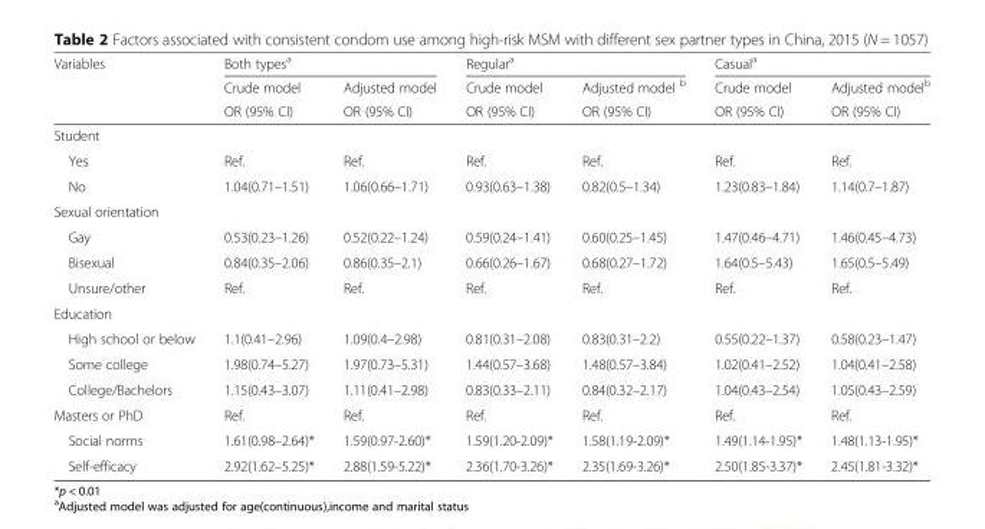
<table><thead><tr><td rowspan="3">Variables</td><td colspan="2">Both types<sup>a</sup></td><td colspan="2">Regular<sup>a</sup></td><td colspan="2">Casual<sup>a</sup></td></tr><tr><td rowspan="2">Crude model OR (95% CI)</td><td rowspan="2">Adjusted model OR (95% CI)</td><td rowspan="2">Crude model OR (95% CI)</td><td rowspan="2">Adjusted model <sup>b</sup> OR (95% CI)</td><td rowspan="2">Crude model OR (95% CI)</td><td rowspan="2">Adjusted model<sup>b</sup> OR (95% CI)</td></tr><tr></tr></thead><tbody><tr><td colspan="7">Student</td></tr><tr><td>Yes</td><td>Ref.</td><td>Ref.</td><td>Ref.</td><td>Ref.</td><td>Ref.</td><td>Ref.</td></tr><tr><td>No</td><td>1.04(0.71–1.51)</td><td>1.06(0.66–1.71)</td><td>0.93(0.63–1.38)</td><td>0.82(0.5–1.34)</td><td>1.23(0.83–1.84)</td><td>1.14(0.7–1.87)</td></tr><tr><td colspan="7">Sexual orientation</td></tr><tr><td>Gay</td><td>0.53(0.23–1.26)</td><td>0.52(0.22–1.24)</td><td>0.59(0.24–1.41)</td><td>0.60(0.25–1.45)</td><td>1.47(0.46–4.71)</td><td>1.46(0.45–4.73)</td></tr><tr><td>Bisexual</td><td>0.84(0.35–2.06)</td><td>0.86(0.35–2.1)</td><td>0.66(0.26–1.67)</td><td>0.68(0.27–1.72)</td><td>1.64(0.5–5.43)</td><td>1.65(0.5–5.49)</td></tr><tr><td>Unsure/other</td><td>Ref.</td><td>Ref.</td><td>Ref.</td><td>Ref.</td><td>Ref.</td><td>Ref.</td></tr><tr><td colspan="7">Education</td></tr><tr><td>High school or below</td><td>1.1(0.41–2.96)</td><td>1.09(0.4–2.98)</td><td>0.81(0.31–2.08)</td><td>0.83(0.31–2.2)</td><td>0.55(0.22–1.37)</td><td>0.58(0.23–1.47)</td></tr><tr><td>Some college</td><td>1.98(0.74–5.27)</td><td>1.97(0.73–5.31)</td><td>1.44(0.57–3.68)</td><td>1.48(0.57–3.84)</td><td>1.02(0.41–2.52)</td><td>1.04(0.41–2.58)</td></tr><tr><td>College/Bachelors</td><td>1.15(0.43–3.07)</td><td>1.11(0.41–2.98)</td><td>0.83(0.33–2.11)</td><td>0.84(0.32–2.17)</td><td>1.04(0.43–2.54)</td><td>1.05(0.43–2.59)</td></tr><tr><td>Masters or PhD</td><td>Ref.</td><td>Ref.</td><td>Ref.</td><td>Ref.</td><td>Ref.</td><td>Ref.</td></tr><tr><td>Social norms</td><td>1.61(0.98–2.64)*</td><td>1.59(0.97-2.60)*</td><td>1.59(1.20-2.09)*</td><td>1.58(1.19-2.09)*</td><td>1.49(1.14-1.95)*</td><td>1.48(1.13-1.95)*</td></tr><tr><td>Self-efficacy</td><td>2.92(1.62–5.25)*</td><td>2.88(1.59-5.22)*</td><td>2.36(1.70-3.26)*</td><td>2.35(1.69-3.26)*</td><td>2.50(1.85-3.37)*</td><td>2.45(1.81-3.32)*</td></tr></tbody></table>